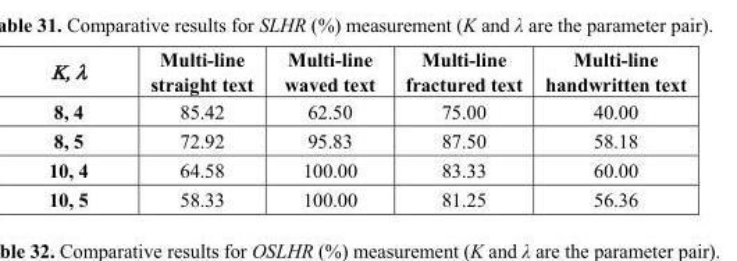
<table><thead><tr><td>Κ, λ</td><td>Multi-line straight text</td><td>Multi-line waved text</td><td>Multi-line fractured text</td><td>Multi-line handwritten text</td></tr></thead><tbody><tr><td>8, 4</td><td>85.42</td><td>62.50</td><td>75.00</td><td>40.00</td></tr><tr><td>8, 5</td><td>72.92</td><td>95.83</td><td>87.50</td><td>58.18</td></tr><tr><td>10, 4</td><td>64.58</td><td>100.00</td><td>83.33</td><td>60.00</td></tr><tr><td>10, 5</td><td>58.33</td><td>100.00</td><td>81.25</td><td>56.36</td></tr></tbody></table>